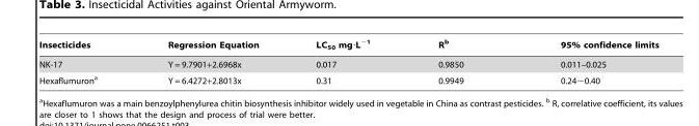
<table><thead><tr><td>Insecticides</td><td>Regression Equation</td><td>LC<sub>50</sub> mg·L<sup>−1</sup></td><td>R<sup>b</sup></td><td>95% confidence limits</td></tr></thead><tbody><tr><td>NK-17</td><td>Y = 9.7901+2.6968x</td><td>0.017</td><td>0.9850</td><td>0.011–0.025</td></tr><tr><td>Hexaflumuron<sup>a</sup></td><td>Y = 6.4272+2.8013x</td><td>0.31</td><td>0.9949</td><td>0.24∼0.40</td></tr></tbody></table>